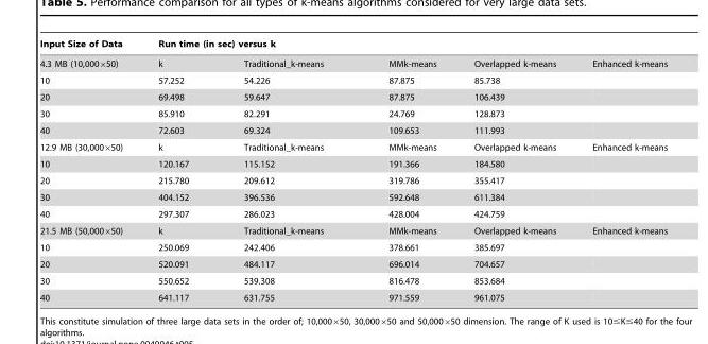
<table><thead><tr><td rowspan="2">Input Size of Data 4.3 MB (10,000×50)</td><td colspan="5">Run time (in sec) versus k</td></tr><tr><td>k</td><td>Traditional_k-means</td><td>MMk-means</td><td>Overlapped k-means</td><td>Enhanced k-means</td></tr></thead><tbody><tr><td>10</td><td>57.252</td><td>54.226</td><td>87.875</td><td>85.738</td><td></td></tr><tr><td>20</td><td>69.498</td><td>59.647</td><td>87.875</td><td>106.439</td><td></td></tr><tr><td>30</td><td>85.910</td><td>82.291</td><td>24.769</td><td>128.873</td><td></td></tr><tr><td>40</td><td>72.603</td><td>69.324</td><td>109.653</td><td>111.993</td><td></td></tr><tr><td>12.9 MB (30,000×50)</td><td>k</td><td>Traditional_k-means</td><td>MMk-means</td><td>Overlapped k-means</td><td>Enhanced k-means</td></tr><tr><td>10</td><td>120.167</td><td>115.152</td><td>191.366</td><td>184.580</td><td></td></tr><tr><td>20</td><td>215.780</td><td>209.612</td><td>319.786</td><td>355.417</td><td></td></tr><tr><td>30</td><td>404.152</td><td>396.536</td><td>592.648</td><td>611.384</td><td></td></tr><tr><td>40</td><td>297.307</td><td>286.023</td><td>428.004</td><td>424.759</td><td></td></tr><tr><td>21.5 MB (50,000×50)</td><td>k</td><td>Traditional_k-means</td><td>MMk-means</td><td>Overlapped k-means</td><td>Enhanced k-means</td></tr><tr><td>10</td><td>250.069</td><td>242.406</td><td>378.661</td><td>385.697</td><td></td></tr><tr><td>20</td><td>520.091</td><td>484.117</td><td>696.014</td><td>704.657</td><td></td></tr><tr><td>30</td><td>550.652</td><td>539.308</td><td>816.478</td><td>853.684</td><td></td></tr><tr><td>40</td><td>641.117</td><td>631.755</td><td>971.559</td><td>961.075</td><td></td></tr></tbody></table>